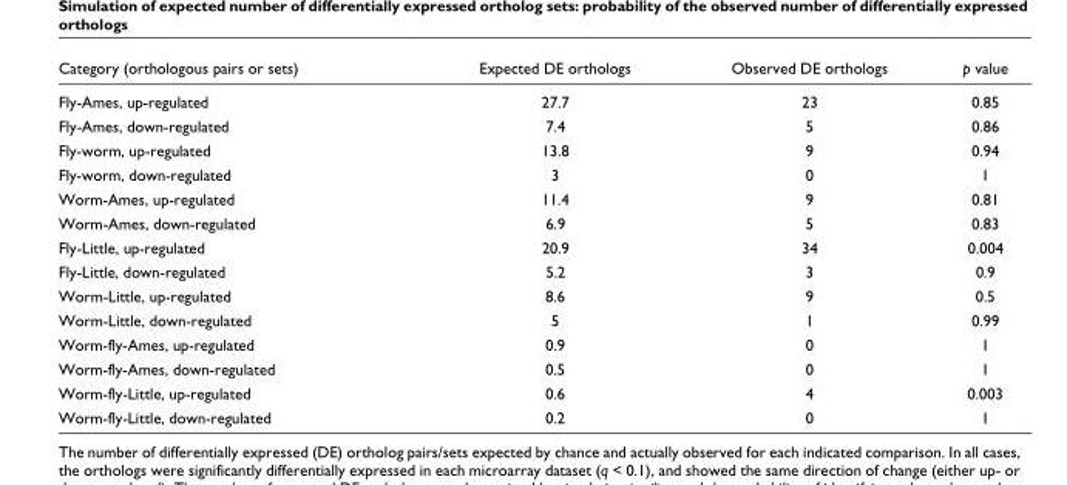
<table><thead><tr><td>Category (orthologous pairs or sets)</td><td>Expected DE orthologs</td><td>Observed DE orthologs</td><td>p value</td></tr></thead><tbody><tr><td>Fly-Ames, up-regulated</td><td>27.7</td><td>23</td><td>0.85</td></tr><tr><td>Fly-Ames, down-regulated</td><td>7.4</td><td>5</td><td>0.86</td></tr><tr><td>Fly-worm, up-regulated</td><td>13.8</td><td>9</td><td>0.94</td></tr><tr><td>Fly-worm, down-regulated</td><td>3</td><td>0</td><td>1</td></tr><tr><td>Worm-Ames, up-regulated</td><td>11.4</td><td>9</td><td>0.81</td></tr><tr><td>Worm-Ames, down-regulated</td><td>6.9</td><td>5</td><td>0.83</td></tr><tr><td>Fly-Little, up-regulated</td><td>20.9</td><td>34</td><td>0.004</td></tr><tr><td>Fly-Little, down-regulated</td><td>5.2</td><td>3</td><td>0.9</td></tr><tr><td>Worm-Little, up-regulated</td><td>8.6</td><td>9</td><td>0.5</td></tr><tr><td>Worm-Little, down-regulated</td><td>5</td><td>1</td><td>0.99</td></tr><tr><td>Worm-fly-Ames, up-regulated</td><td>0.9</td><td>0</td><td>1</td></tr><tr><td>Worm-fly-Ames, down-regulated</td><td>0.5</td><td>0</td><td>1</td></tr><tr><td>Worm-fly-Little, up-regulated</td><td>0.6</td><td>4</td><td>0.003</td></tr><tr><td>Worm-fly-Little, down-regulated</td><td>0.2</td><td>0</td><td>1</td></tr></tbody></table>